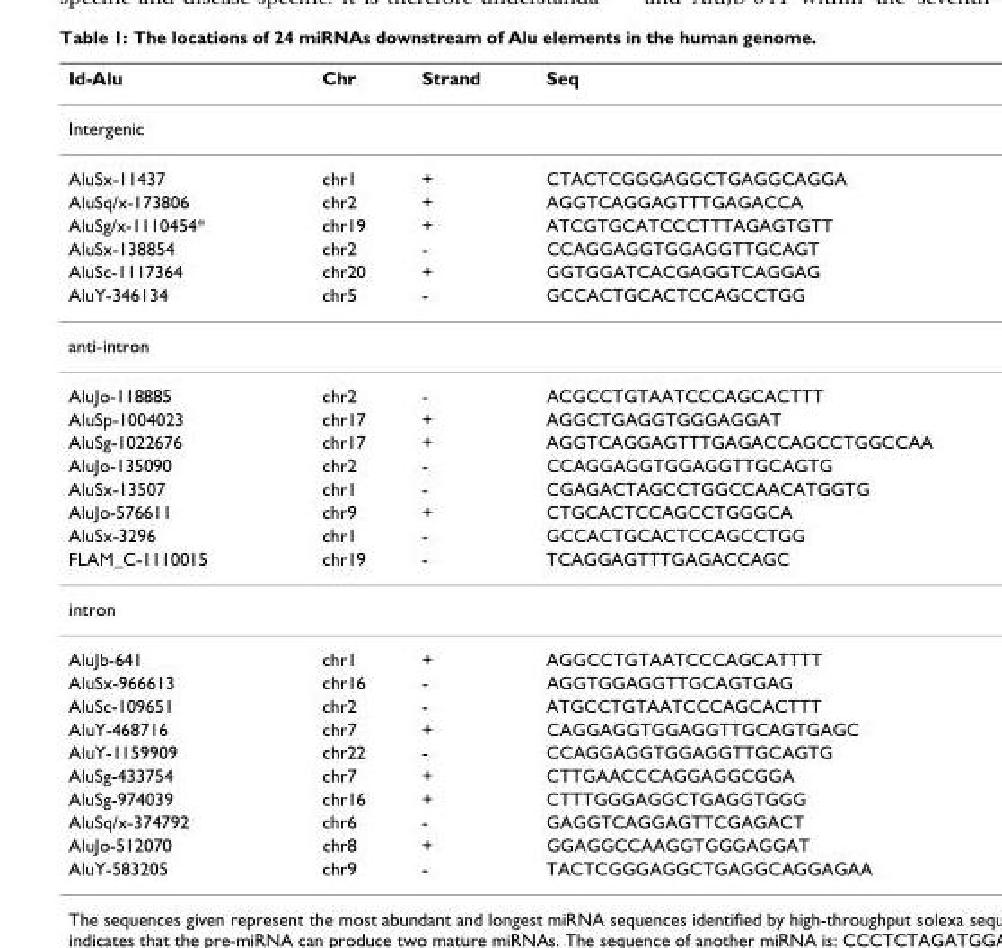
<table><thead><tr><td>Id-Alu</td><td>Chr</td><td>Strand</td><td>Seq</td></tr></thead><tbody><tr><td colspan="4">Intergenic</td></tr><tr><td>AluSx-11437</td><td>chr1</td><td>+</td><td>CTACTCGGGAGGCTGAGGCAGGA</td></tr><tr><td>AluSq/x-173806</td><td>chr2</td><td>+</td><td>AGGTCAGGAGTTTGAGACCA</td></tr><tr><td>AluSg/x-1110454*</td><td>chr19</td><td>+</td><td>ATCGTGCATCCCTTTAGAGTGTT</td></tr><tr><td>AluSx-138854</td><td>chr2</td><td>-</td><td>CCAGGAGGTGGAGGTTGCAGT</td></tr><tr><td>AluSc-1117364</td><td>chr20</td><td>+</td><td>GGTGGATCACGAGGTCAGGAG</td></tr><tr><td>AluY-346134</td><td>chr5</td><td>-</td><td>GCCACTGCACTCCAGCCTGG</td></tr><tr><td colspan="4">anti-intron</td></tr><tr><td>AluJo-118885</td><td>chr2</td><td>-</td><td>ACGCCTGTAATCCCAGCACTTT</td></tr><tr><td>AluSp-1004023</td><td>chr17</td><td>+</td><td>AGGCTGAGGTGGGAGGAT</td></tr><tr><td>AluSg-1022676</td><td>chr17</td><td>+</td><td>AGGTCAGGAGTTTGAGACCAGCCTGGCCAA</td></tr><tr><td>AluJo-135090</td><td>chr2</td><td>-</td><td>CCAGGAGGTGGAGGTTGCAGTG</td></tr><tr><td>AluSx-13507</td><td>chr1</td><td>-</td><td>CGAGACTAGCCTGGCCAACATGGTG</td></tr><tr><td>AluJo-576611</td><td>chr9</td><td>+</td><td>CTGCACTCCAGCCTGGGCA</td></tr><tr><td>AluSx-3296</td><td>chr1</td><td>-</td><td>GCCACTGCACTCCAGCCTGG</td></tr><tr><td>FLAM_C-1110015</td><td>chr19</td><td>-</td><td>TCAGGAGTTTGAGACCAGC</td></tr><tr><td colspan="4">intron</td></tr><tr><td>AluJb-641</td><td>chr1</td><td>+</td><td>AGGCCTGTAATCCCAGCATTTT</td></tr><tr><td>AluSx-966613</td><td>chr16</td><td>-</td><td>AGGTGGAGGTTGCAGTGAG</td></tr><tr><td>AluSc-109651</td><td>chr2</td><td>-</td><td>ATGCCTGTAATCCCAGCACTTT</td></tr><tr><td>AluY-468716</td><td>chr7</td><td>+</td><td>CAGGAGGTGGAGGTTGCAGTGAGC</td></tr><tr><td>AluY-1159909</td><td>chr22</td><td>-</td><td>CCAGGAGGTGGAGGTTGCAGTG</td></tr><tr><td>AluSg-433754</td><td>chr7</td><td>+</td><td>CTTGAACCCAGGAGGCGGA</td></tr><tr><td>AluSg-974039</td><td>chr16</td><td>+</td><td>CTTTGGGAGGCTGAGGTGGG</td></tr><tr><td>AluSq/x-374792</td><td>chr6</td><td>-</td><td>GAGGTCAGGAGTTCGAGACT</td></tr><tr><td>AluJo-512070</td><td>chr8</td><td>+</td><td>GGAGGCCAAGGTGGGAGGAT</td></tr><tr><td>AluY-583205</td><td>chr9</td><td>-</td><td>TACTCGGGAGGCTGAGGCAGGAGAA</td></tr></tbody></table>